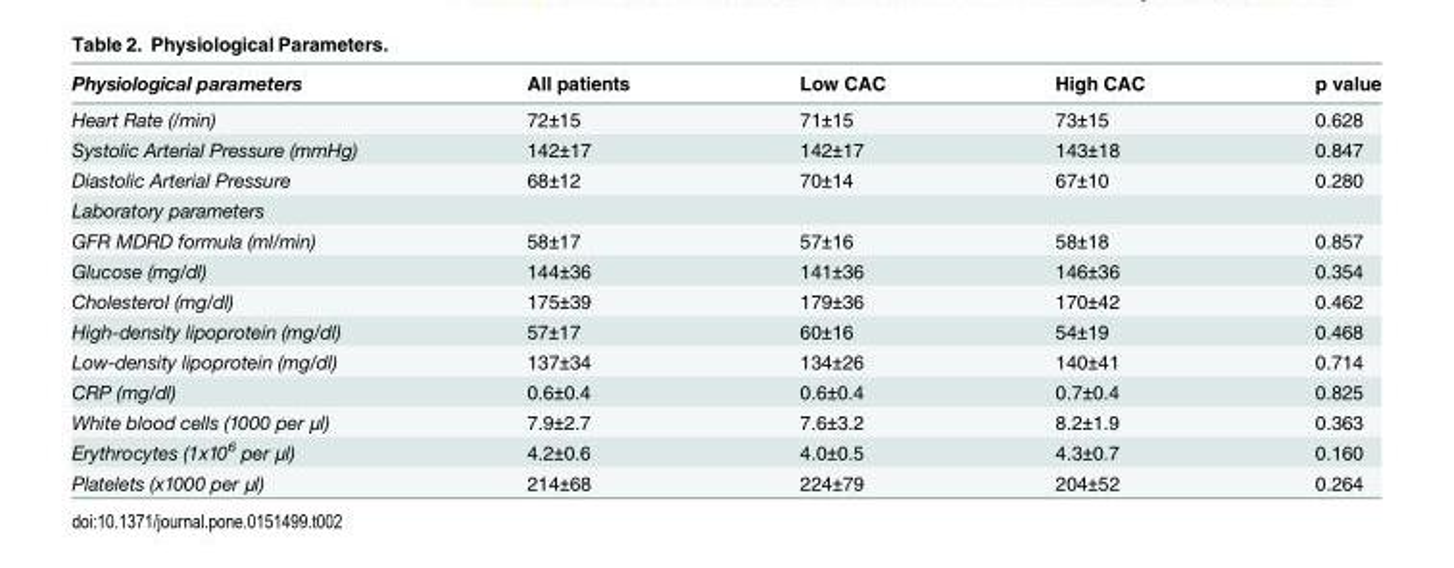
<table><thead><tr><td>Physiological parameters</td><td>All patients</td><td>Low CAC</td><td>High CAC</td><td>p value</td></tr></thead><tbody><tr><td>Heart Rate (/min)</td><td>72±15</td><td>71±15</td><td>73±15</td><td>0.628</td></tr><tr><td>Systolic Arterial Pressure (mmHg)</td><td>142±17</td><td>142±17</td><td>143±18</td><td>0.847</td></tr><tr><td>Diastolic Arterial Pressure</td><td>68±12</td><td>70±14</td><td>67±10</td><td>0.280</td></tr><tr><td colspan="5">Laboratory parameters</td></tr><tr><td>GFR MDRD formula (ml/min)</td><td>58±17</td><td>57±16</td><td>58±18</td><td>0.857</td></tr><tr><td>Glucose (mg/dl)</td><td>144±36</td><td>141±36</td><td>146±36</td><td>0.354</td></tr><tr><td>Cholesterol (mg/dl)</td><td>175±39</td><td>179±36</td><td>170±42</td><td>0.462</td></tr><tr><td>High-density lipoprotein (mg/dl)</td><td>57±17</td><td>60±16</td><td>54±19</td><td>0.468</td></tr><tr><td>Low-density lipoprotein (mg/dl)</td><td>137±34</td><td>134±26</td><td>140±41</td><td>0.714</td></tr><tr><td>CRP (mg/dl)</td><td>0.6±0.4</td><td>0.6±0.4</td><td>0.7±0.4</td><td>0.825</td></tr><tr><td>White blood cells (1000 per µl)</td><td>7.9±2.7</td><td>7.6±3.2</td><td>8.2±1.9</td><td>0.363</td></tr><tr><td>Erythrocytes (1x10<sup>6</sup> per µl)</td><td>4.2±0.6</td><td>4.0±0.5</td><td>4.3±0.7</td><td>0.160</td></tr><tr><td>Platelets (x1000 per µl)</td><td>214±68</td><td>224±79</td><td>204±52</td><td>0.264</td></tr></tbody></table>